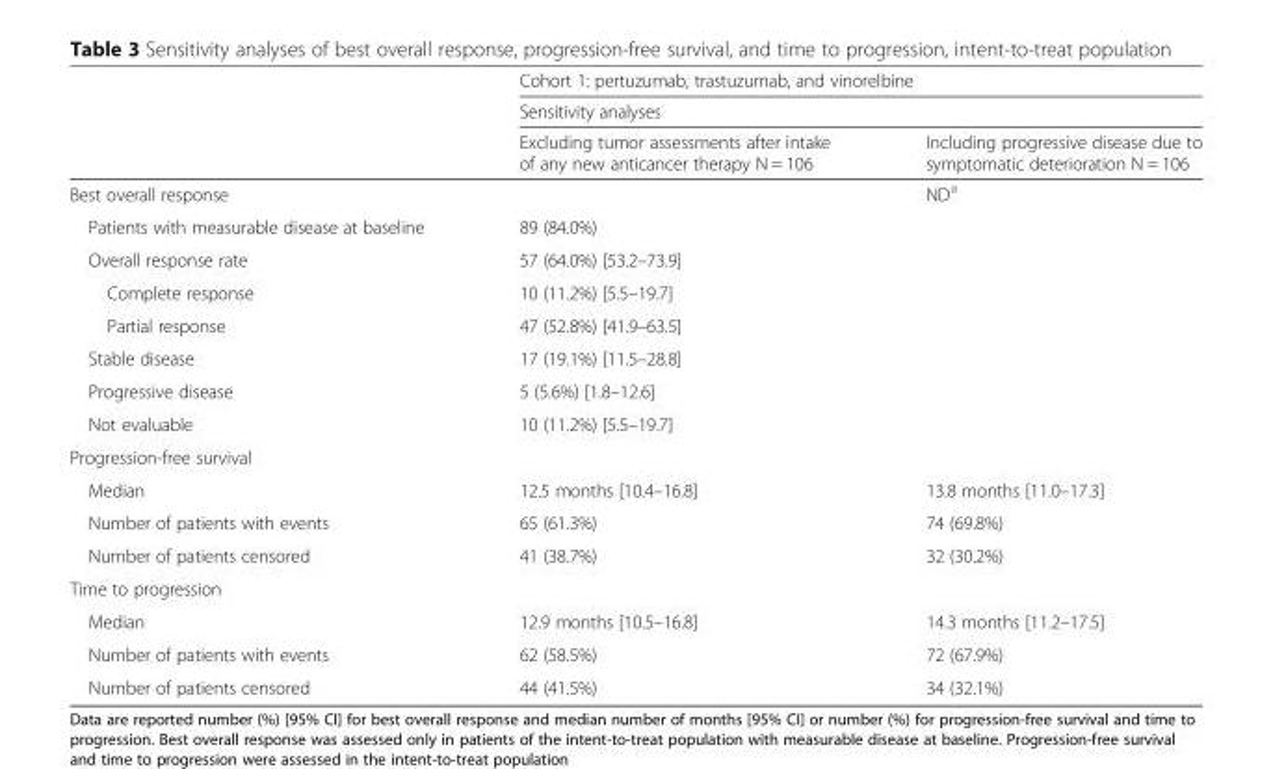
<table><thead><tr><td rowspan="3"></td><td rowspan="2" colspan="2">Cohort 1: pertuzumab, trastuzumab, and vinorelbine Sensitivity analyses</td></tr><tr></tr><tr><td>Excluding tumor assessments after intake of any new anticancer therapy N = 106</td><td>Including progressive disease due to symptomatic deterioration N = 106</td></tr></thead><tbody><tr><td>Best overall response</td><td></td><td>ND<sup>a</sup></td></tr><tr><td>Patients with measurable disease at baseline</td><td>89 (84.0%)</td><td></td></tr><tr><td>Overall response rate</td><td>57 (64.0%) [53.2–73.9]</td><td></td></tr><tr><td>Complete response</td><td>10 (11.2%) [5.5–19.7]</td><td></td></tr><tr><td>Partial response</td><td>47 (52.8%) [41.9–63.5]</td><td></td></tr><tr><td>Stable disease</td><td>17 (19.1%) [11.5–28.8]</td><td></td></tr><tr><td>Progressive disease</td><td>5 (5.6%) [1.8–12.6]</td><td></td></tr><tr><td>Not evaluable</td><td>10 (11.2%) [5.5–19.7]</td><td></td></tr><tr><td colspan="3">Progression-free survival</td></tr><tr><td>Median</td><td>12.5 months [10.4–16.8]</td><td>13.8 months [11.0–17.3]</td></tr><tr><td>Number of patients with events</td><td>65 (61.3%)</td><td>74 (69.8%)</td></tr><tr><td>Number of patients censored</td><td>41 (38.7%)</td><td>32 (30.2%)</td></tr><tr><td colspan="3">Time to progression</td></tr><tr><td>Median</td><td>12.9 months [10.5–16.8]</td><td>14.3 months [11.2–17.5]</td></tr><tr><td>Number of patients with events</td><td>62 (58.5%)</td><td>72 (67.9%)</td></tr><tr><td>Number of patients censored</td><td>44 (41.5%)</td><td>34 (32.1%)</td></tr></tbody></table>